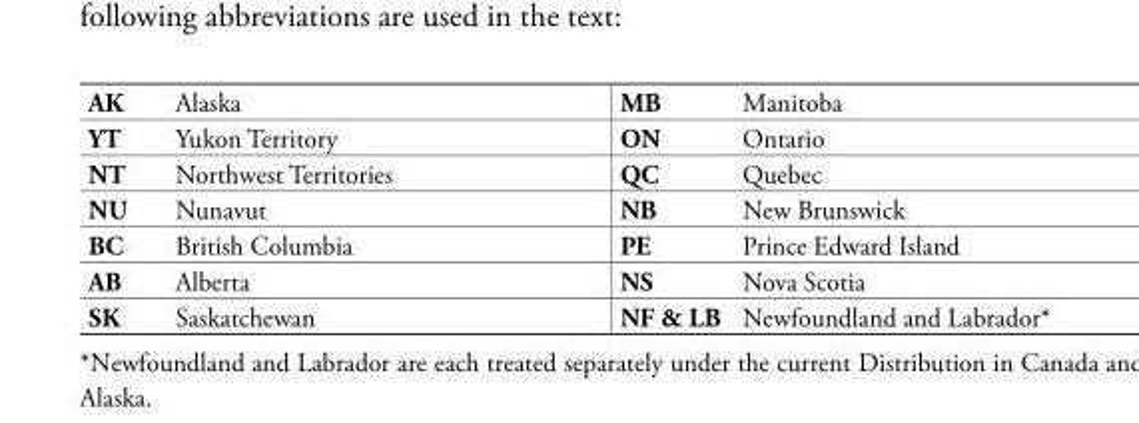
<table><tbody><tr><td>AK</td><td>Alaska</td><td>MB</td><td>Manitoba</td></tr><tr><td>YT</td><td>Yukon Territory</td><td>ON</td><td>Ontario</td></tr><tr><td>NT</td><td>Northwest Territories</td><td>QC</td><td>Quebec</td></tr><tr><td>NU</td><td>Nunavut</td><td>NB</td><td>New Brunswick</td></tr><tr><td>BC</td><td>British Columbia</td><td>PE</td><td>Prince Edward Island</td></tr><tr><td>AB</td><td>Alberta</td><td>NS</td><td>Nova Scotia</td></tr><tr><td>SK</td><td>Saskatchewan</td><td>NF &amp; LB</td><td>Newfoundland and Labrador*</td></tr></tbody></table>